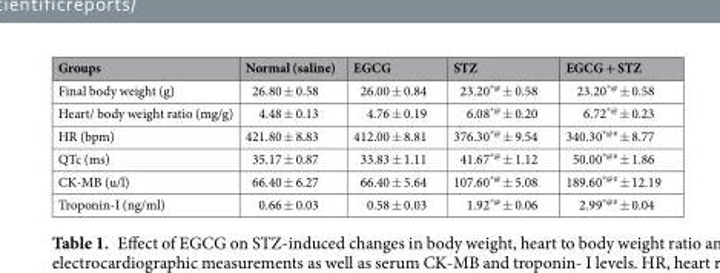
<table><thead><tr><td>Groups</td><td>Normal (saline)</td><td>EGCG</td><td>STZ</td><td>EGCG + STZ</td></tr></thead><tbody><tr><td>Final body weight (g)</td><td>26.80 ± 0.58</td><td>26.00 ± 0.84</td><td>23.20<sup>*@</sup> ± 0.58</td><td>23.20<sup>*@</sup> ± 0.58</td></tr><tr><td>Heart/ body weight ratio (mg/g)</td><td>4.48 ± 0.13</td><td>4.76 ± 0.19</td><td>6.08<sup>*@</sup> ± 0.20</td><td>6.72<sup>*@</sup> ± 0.23</td></tr><tr><td>HR (bpm)</td><td>421.80 ± 8.83</td><td>412.00 ± 8.81</td><td>376.30<sup>*@</sup> ± 9.54</td><td>340.30<sup>*@#</sup> ± 8.77</td></tr><tr><td>QTc (ms)</td><td>35.17 ± 0.87</td><td>33.83 ± 1.11</td><td>41.67<sup>*@</sup> ± 1.12</td><td>50.00<sup>*@#</sup> ± 1.86</td></tr><tr><td>CK-MB (u/l)</td><td>66.40 ± 6.27</td><td>66.40 ± 5.64</td><td>107.60<sup>*@</sup> ± 5.08</td><td>189.60<sup>*@#</sup> ± 12.19</td></tr><tr><td>Troponin-I (ng/ml)</td><td>0.66 ± 0.03</td><td>0.58 ± 0.03</td><td>1.92<sup>*@</sup> ± 0.06</td><td>2.99<sup>*@#</sup> ± 0.04</td></tr></tbody></table>